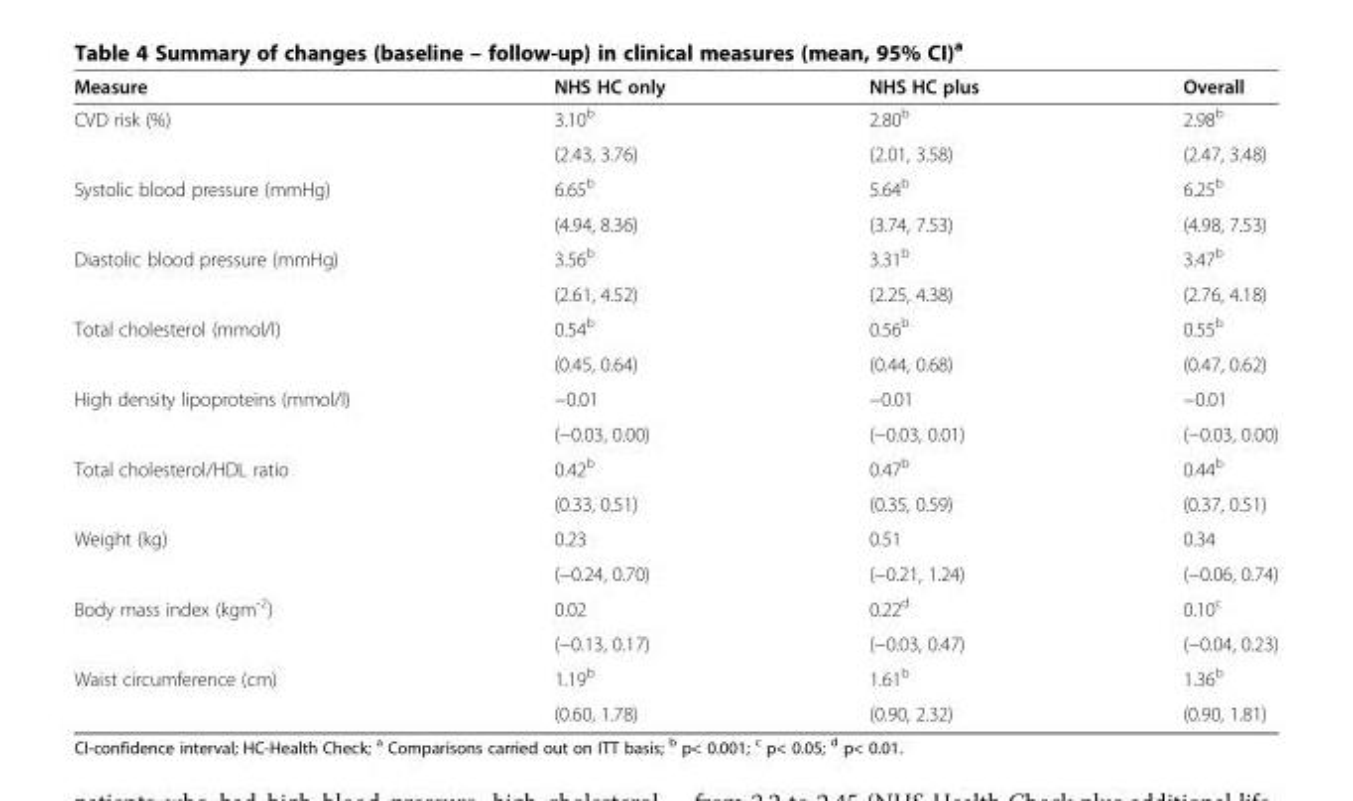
<table><thead><tr><td>Measure</td><td>NHS HC only</td><td>NHS HC plus</td><td>Overall</td></tr></thead><tbody><tr><td rowspan="2">CVD risk (%)</td><td>3.10<sup>b</sup></td><td>2.80<sup>b</sup></td><td>2.98<sup>b</sup></td></tr><tr><td>(2.43, 3.76)</td><td>(2.01, 3.58)</td><td>(2.47, 3.48)</td></tr><tr><td rowspan="2">Systolic blood pressure (mmHg)</td><td>6.65<sup>b</sup></td><td>5.64<sup>b</sup></td><td>6.25<sup>b</sup></td></tr><tr><td>(4.94, 8.36)</td><td>(3.74, 7.53)</td><td>(4.98, 7.53)</td></tr><tr><td rowspan="2">Diastolic blood pressure (mmHg)</td><td>3.56<sup>b</sup></td><td>3.31<sup>b</sup></td><td>3.47<sup>b</sup></td></tr><tr><td>(2.61, 4.52)</td><td>(2.25, 4.38)</td><td>(2.76, 4.18)</td></tr><tr><td rowspan="2">Total cholesterol (mmol/l)</td><td>0.54<sup>b</sup></td><td>0.56<sup>b</sup></td><td>0.55<sup>b</sup></td></tr><tr><td>(0.45, 0.64)</td><td>(0.44, 0.68)</td><td>(0.47, 0.62)</td></tr><tr><td rowspan="2">High density lipoproteins (mmol/l)</td><td>−0.01</td><td>−0.01</td><td>−0.01</td></tr><tr><td>(−0.03, 0.00)</td><td>(−0.03, 0.01)</td><td>(−0.03, 0.00)</td></tr><tr><td rowspan="2">Total cholesterol/HDL ratio</td><td>0.42<sup>b</sup></td><td>0.47<sup>b</sup></td><td>0.44<sup>b</sup></td></tr><tr><td>(0.33, 0.51)</td><td>(0.35, 0.59)</td><td>(0.37, 0.51)</td></tr><tr><td rowspan="2">Weight (kg)</td><td>0.23</td><td>0.51</td><td>0.34</td></tr><tr><td>(−0.24, 0.70)</td><td>(−0.21, 1.24)</td><td>(−0.06, 0.74)</td></tr><tr><td rowspan="2">Body mass index (kgm<sup>-2</sup>)</td><td>0.02</td><td>0.22<sup>d</sup></td><td>0.10<sup>c</sup></td></tr><tr><td>(−0.13, 0.17)</td><td>(−0.03, 0.47)</td><td>(−0.04, 0.23)</td></tr><tr><td rowspan="2">Waist circumference (cm)</td><td>1.19<sup>b</sup></td><td>1.61<sup>b</sup></td><td>1.36<sup>b</sup></td></tr><tr><td>(0.60, 1.78)</td><td>(0.90, 2.32)</td><td>(0.90, 1.81)</td></tr></tbody></table>